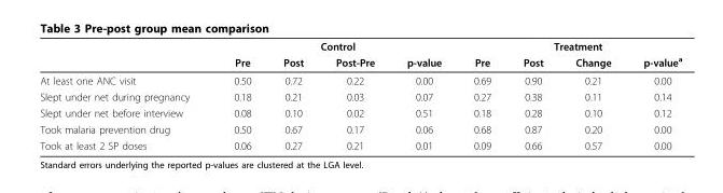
<table><thead><tr><td rowspan="2"></td><td colspan="4">Control</td><td colspan="4">Treatment</td></tr><tr><td>Pre</td><td>Post</td><td>Post-Pre</td><td>p-value</td><td>Pre</td><td>Post</td><td>Change</td><td>p-value<sup>a</sup></td></tr></thead><tbody><tr><td>At least one ANC visit</td><td>0.50</td><td>0.72</td><td>0.22</td><td>0.00</td><td>0.69</td><td>0.90</td><td>0.21</td><td>0.00</td></tr><tr><td>Slept under net during pregnancy</td><td>0.18</td><td>0.21</td><td>0.03</td><td>0.07</td><td>0.27</td><td>0.38</td><td>0.11</td><td>0.14</td></tr><tr><td>Slept under net before interview</td><td>0.08</td><td>0.10</td><td>0.02</td><td>0.51</td><td>0.18</td><td>0.28</td><td>0.10</td><td>0.12</td></tr><tr><td>Took malaria prevention drug</td><td>0.50</td><td>0.67</td><td>0.17</td><td>0.06</td><td>0.68</td><td>0.87</td><td>0.20</td><td>0.00</td></tr><tr><td>Took at least 2 SP doses</td><td>0.06</td><td>0.27</td><td>0.21</td><td>0.01</td><td>0.09</td><td>0.66</td><td>0.57</td><td>0.00</td></tr></tbody></table>